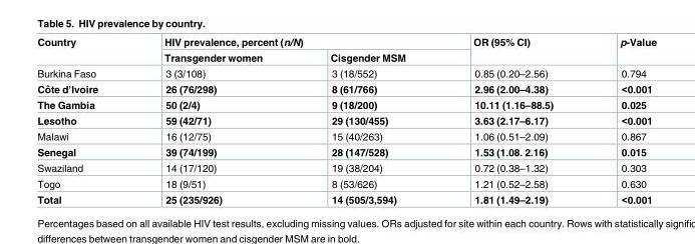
<table><thead><tr><td rowspan="2">Country</td><td colspan="2">HIV prevalence, percent (n/N)</td><td rowspan="2">OR (95% CI)</td><td rowspan="2">p-Value</td></tr><tr><td>Transgender women</td><td>Cisgender MSM</td></tr></thead><tbody><tr><td>Burkina Faso</td><td>3 (3/108)</td><td>3 (18/552)</td><td>0.85 (0.20–2.56)</td><td>0.794</td></tr><tr><td>Coˆte d’Ivoire</td><td>26 (76/298)</td><td>8 (61/766)</td><td>2.96 (2.00–4.38)</td><td>&lt;0.001</td></tr><tr><td>The Gambia</td><td>50 (2/4)</td><td>9 (18/200)</td><td>10.11 (1.16–88.5)</td><td>0.025</td></tr><tr><td>Lesotho</td><td>59 (42/71)</td><td>29 (130/455)</td><td>3.63 (2.17–6.17)</td><td>&lt;0.001</td></tr><tr><td>Malawi</td><td>16 (12/75)</td><td>15 (40/263)</td><td>1.06 (0.51–2.09)</td><td>0.867</td></tr><tr><td>Senegal</td><td>39 (74/199)</td><td>28 (147/528)</td><td>1.53 (1.08. 2.16)</td><td>0.015</td></tr><tr><td>Swaziland</td><td>14 (17/120)</td><td>19 (38/204)</td><td>0.72 (0.38–1.32)</td><td>0.303</td></tr><tr><td>Togo</td><td>18 (9/51)</td><td>8 (53/626)</td><td>1.21 (0.52–2.58)</td><td>0.630</td></tr><tr><td>Total</td><td>25 (235/926)</td><td>14 (505/3,594)</td><td>1.81 (1.49–2.19)</td><td>&lt;0.001</td></tr></tbody></table>